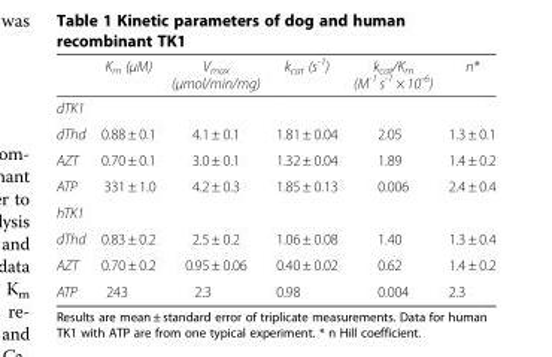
<table><thead><tr><td></td><td>K<sub>m</sub> (μM)</td><td>V<sub>max</sub> (μmol/min/mg)</td><td>k<sub>cat</sub> (s<sup>-1</sup>)</td><td>k<sub>cat</sub>/K<sub>m</sub> (M<sup>-1</sup> s<sup>-1</sup> × 10<sup>-6</sup>)</td><td>n*</td></tr></thead><tbody><tr><td colspan="6">dTK1</td></tr><tr><td>dThd</td><td>0.88 ± 0.1</td><td>4.1 ± 0.1</td><td>1.81 ± 0.04</td><td>2.05</td><td>1.3 ± 0.1</td></tr><tr><td>AZT</td><td>0.70 ± 0.1</td><td>3.0 ± 0.1</td><td>1.32 ± 0.04</td><td>1.89</td><td>1.4 ± 0.2</td></tr><tr><td>ATP</td><td>331 ± 1.0</td><td>4.2 ± 0.3</td><td>1.85 ± 0.13</td><td>0.006</td><td>2.4 ± 0.4</td></tr><tr><td colspan="6">hTK1</td></tr><tr><td>dThd</td><td>0.83 ± 0.2</td><td>2.5 ± 0.2</td><td>1.06 ± 0.08</td><td>1.40</td><td>1.3 ± 0.4</td></tr><tr><td>AZT</td><td>0.70 ± 0.2</td><td>0.95 ± 0.06</td><td>0.40 ± 0.02</td><td>0.62</td><td>1.4 ± 0.2</td></tr><tr><td>ATP</td><td>243</td><td>2.3</td><td>0.98</td><td>0.004</td><td>2.3</td></tr></tbody></table>